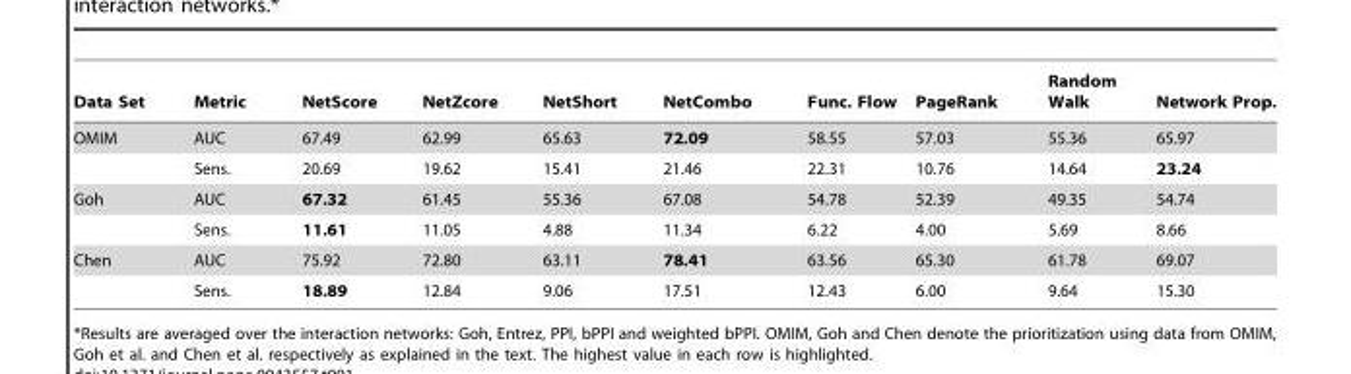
<table><thead><tr><td>Data Set</td><td>Metric</td><td>NetScore</td><td>NetZcore</td><td>NetShort</td><td>NetCombo</td><td>Func. Flow</td><td>PageRank</td><td>Random Walk</td><td>Network Prop.</td></tr></thead><tbody><tr><td rowspan="2">OMIM</td><td>AUC</td><td>67.49</td><td>62.99</td><td>65.63</td><td>72.09</td><td>58.55</td><td>57.03</td><td>55.36</td><td>65.97</td></tr><tr><td>Sens.</td><td>20.69</td><td>19.62</td><td>15.41</td><td>21.46</td><td>22.31</td><td>10.76</td><td>14.64</td><td>23.24</td></tr><tr><td rowspan="2">Goh</td><td>AUC</td><td>67.32</td><td>61.45</td><td>55.36</td><td>67.08</td><td>54.78</td><td>52.39</td><td>49.35</td><td>54.74</td></tr><tr><td>Sens.</td><td>11.61</td><td>11.05</td><td>4.88</td><td>11.34</td><td>6.22</td><td>4.00</td><td>5.69</td><td>8.66</td></tr><tr><td rowspan="2">Chen</td><td>AUC</td><td>75.92</td><td>72.80</td><td>63.11</td><td>78.41</td><td>63.56</td><td>65.30</td><td>61.78</td><td>69.07</td></tr><tr><td>Sens.</td><td>18.89</td><td>12.84</td><td>9.06</td><td>17.51</td><td>12.43</td><td>6.00</td><td>9.64</td><td>15.30</td></tr></tbody></table>